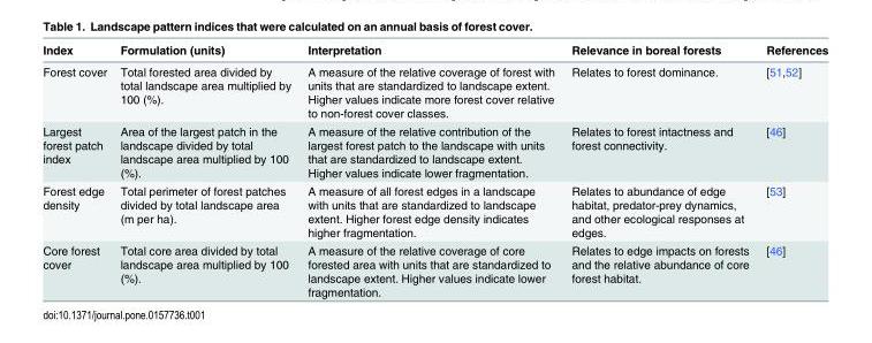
<table><thead><tr><td>Index</td><td>Formulation (units)</td><td>Interpretation</td><td>Relevance in boreal forests</td><td>References</td></tr></thead><tbody><tr><td>Forest cover</td><td>Total forested area divided by total landscape area multiplied by 100 (%).</td><td>A measure of the relative coverage of forest with units that are standardized to landscape extent. Higher values indicate more forest cover relative to non-forest cover classes.</td><td>Relates to forest dominance.</td><td>[51,52]</td></tr><tr><td>Largest forest patch index</td><td>Area of the largest patch in the landscape divided by total landscape area multiplied by 100 (%).</td><td>A measure of the relative contribution of the largest forest patch to the landscape with units that are standardized to landscape extent. Higher values indicate lower fragmentation.</td><td>Relates to forest intactness and forest connectivity.</td><td>[46]</td></tr><tr><td>Forest edge density</td><td>Total perimeter of forest patches divided by total landscape area (m per ha).</td><td>A measure of all forest edges in a landscape with units that are standardized to landscape extent. Higher forest edge density indicates higher fragmentation.</td><td>Relates to abundance of edge habitat, predator-prey dynamics, and other ecological responses at edges.</td><td>[53]</td></tr><tr><td>Core forest cover</td><td>Total core area divided by total landscape area multiplied by 100 (%).</td><td>A measure of the relative coverage of core forested area with units that are standardized to landscape extent. Higher values indicate lower fragmentation.</td><td>Relates to edge impacts on forests and the relative abundance of core forest habitat.</td><td>[46]</td></tr></tbody></table>